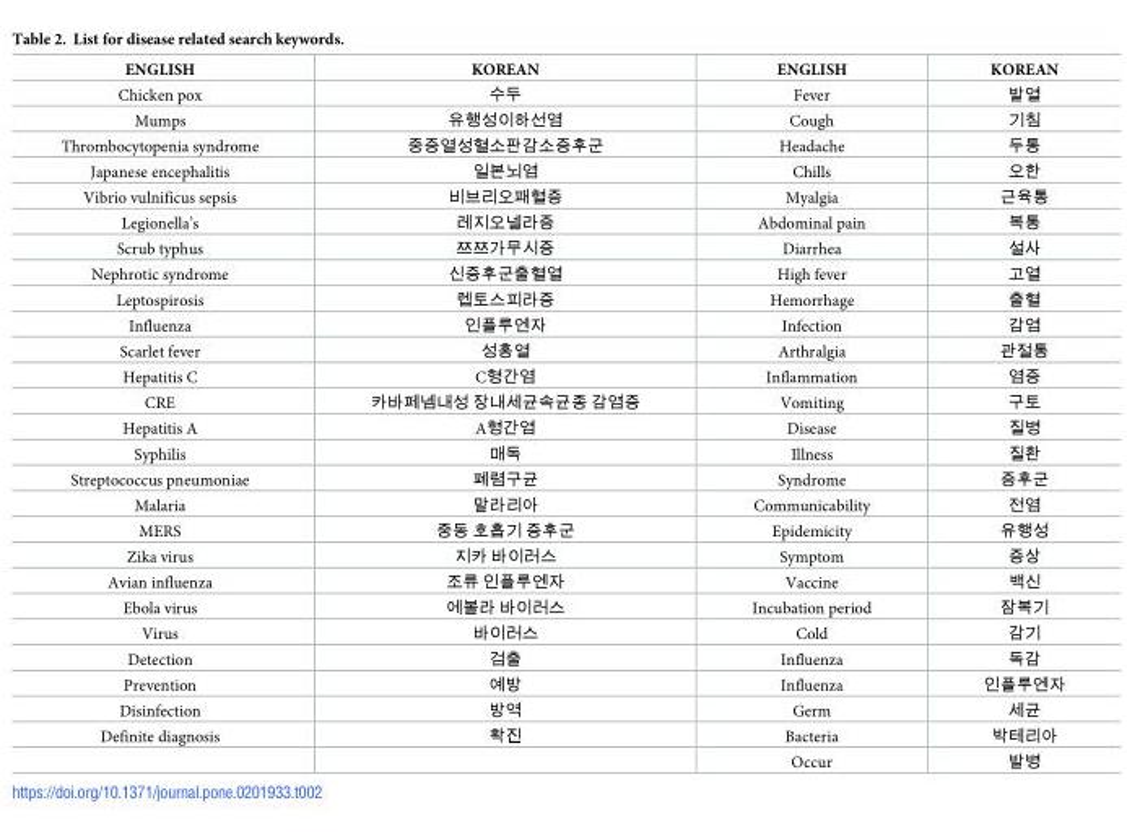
<table><thead><tr><td>ENGLISH</td><td>KOREAN</td><td>ENGLISH</td><td>KOREAN</td></tr></thead><tbody><tr><td>Chicken pox</td><td>수두</td><td>Fever</td><td>발열</td></tr><tr><td>Mumps</td><td>유행성이하선염</td><td>Cough</td><td>기침</td></tr><tr><td>Thrombocytopenia syndrome</td><td>중증열성혈소판감소증후군</td><td>Headache</td><td>두통</td></tr><tr><td>Japanese encephalitis</td><td>일본뇌염</td><td>Chills</td><td>오한</td></tr><tr><td>Vibrio vulnificus sepsis</td><td>비브리오패혈증</td><td>Myalgia</td><td>근육통</td></tr><tr><td>Legionella’s</td><td>레지오넬라증</td><td>Abdominal pain</td><td>복통</td></tr><tr><td>Scrub typhus</td><td>쯔쯔가무시증</td><td>Diarrhea</td><td>설사</td></tr><tr><td>Nephrotic syndrome</td><td>신증후군출혈열</td><td>High fever</td><td>고열</td></tr><tr><td>Leptospirosis</td><td>렙토스피라증</td><td>Hemorrhage</td><td>출혈</td></tr><tr><td>Influenza</td><td>인플루엔자</td><td>Infection</td><td>감염</td></tr><tr><td>Scarlet fever</td><td>성홍열</td><td>Arthralgia</td><td>관절통</td></tr><tr><td>Hepatitis C</td><td>C형간염</td><td>Inflammation</td><td>염증</td></tr><tr><td>CRE</td><td>카바페넴내성 장내세균속균종 감염증</td><td>Vomiting</td><td>구토</td></tr><tr><td>Hepatitis A</td><td>A형간염</td><td>Disease</td><td>질병</td></tr><tr><td>Syphilis</td><td>매독</td><td>Illness</td><td>질환</td></tr><tr><td>Streptococcus pneumoniae</td><td>폐렴구균</td><td>Syndrome</td><td>증후군</td></tr><tr><td>Malaria</td><td>말라리아</td><td>Communicability</td><td>전염</td></tr><tr><td>MERS</td><td>중동 호흡기 증후군</td><td>Epidemicity</td><td>유행성</td></tr><tr><td>Zika virus</td><td>지카 바이러스</td><td>Symptom</td><td>증상</td></tr><tr><td>Avian influenza</td><td>조류 인플루엔자</td><td>Vaccine</td><td>백신</td></tr><tr><td>Ebola virus</td><td>에볼라 바이러스</td><td>Incubation period</td><td>잠복기</td></tr><tr><td>Virus</td><td>바이러스</td><td>Cold</td><td>감기</td></tr><tr><td>Detection</td><td>검출</td><td>Influenza</td><td>독감</td></tr><tr><td>Prevention</td><td>예방</td><td>Influenza</td><td>인플루엔자</td></tr><tr><td>Disinfection</td><td>방역</td><td>Germ</td><td>세균</td></tr><tr><td rowspan="2">Definite diagnosis</td><td>확진</td><td>Bacteria</td><td>박테리아</td></tr><tr><td></td><td>Occur</td><td>발병</td></tr></tbody></table>